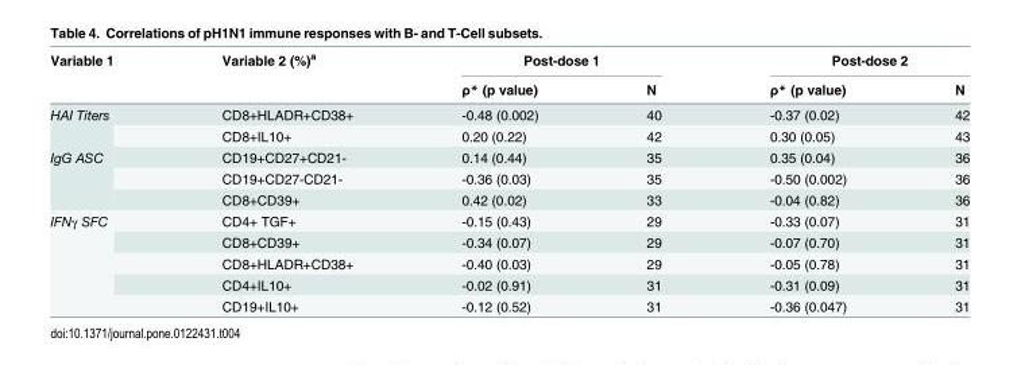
<table><thead><tr><td rowspan="2">Variable 1</td><td rowspan="2">Variable 2 (%)<sup>a</sup></td><td colspan="2">Post-dose 1</td><td colspan="2">Post-dose 2</td></tr><tr><td>ρ* (p value)</td><td>N</td><td>ρ* (p value)</td><td>N</td></tr></thead><tbody><tr><td rowspan="2">HAI Titers</td><td>CD8+HLADR+CD38+</td><td>-0.48 (0.002)</td><td>40</td><td>-0.37 (0.02)</td><td>42</td></tr><tr><td>CD8+IL10+</td><td>0.20 (0.22)</td><td>42</td><td>0.30 (0.05)</td><td>43</td></tr><tr><td rowspan="3">IgG ASC</td><td>CD19+CD27+CD21-</td><td>0.14 (0.44)</td><td>35</td><td>0.35 (0.04)</td><td>36</td></tr><tr><td>CD19+CD27-CD21-</td><td>-0.36 (0.03)</td><td>35</td><td>-0.50 (0.002)</td><td>36</td></tr><tr><td>CD8+CD39+</td><td>0.42 (0.02)</td><td>33</td><td>-0.04 (0.82)</td><td>36</td></tr><tr><td rowspan="5">IFNγ SFC</td><td>CD4+ TGF+</td><td>-0.15 (0.43)</td><td>29</td><td>-0.33 (0.07)</td><td>31</td></tr><tr><td>CD8+CD39+</td><td>-0.34 (0.07)</td><td>29</td><td>-0.07 (0.70)</td><td>31</td></tr><tr><td>CD8+HLADR+CD38+</td><td>-0.40 (0.03)</td><td>29</td><td>-0.05 (0.78)</td><td>31</td></tr><tr><td>CD4+IL10+</td><td>-0.02 (0.91)</td><td>31</td><td>-0.31 (0.09)</td><td>31</td></tr><tr><td>CD19+IL10+</td><td>-0.12 (0.52)</td><td>31</td><td>-0.36 (0.047)</td><td>31</td></tr></tbody></table>